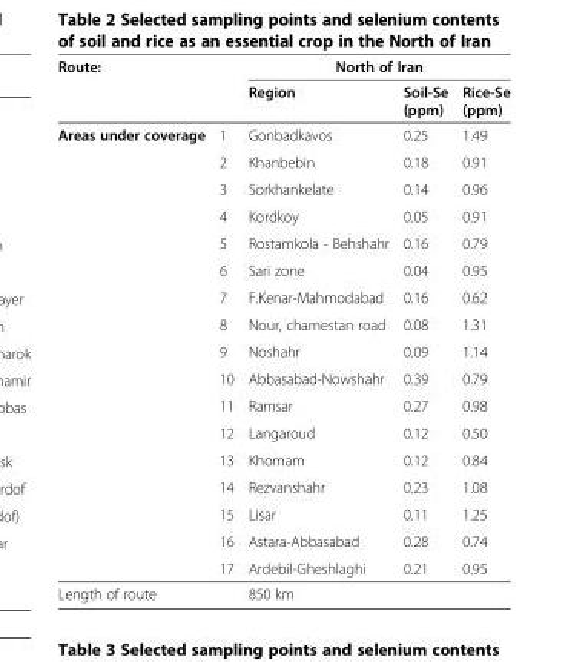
<table><thead><tr><td colspan="2">Route:</td><td colspan="3">North of Iran</td></tr><tr><td></td><td></td><td>Region</td><td>Soil-Se (ppm)</td><td>Rice-Se (ppm)</td></tr></thead><tbody><tr><td rowspan="17">Areas under coverage</td><td>1</td><td>Gonbadkavos</td><td>0.25</td><td>1.49</td></tr><tr><td>2</td><td>Khanbebin</td><td>0.18</td><td>0.91</td></tr><tr><td>3</td><td>Sorkhankelate</td><td>0.14</td><td>0.96</td></tr><tr><td>4</td><td>Kordkoy</td><td>0.05</td><td>0.91</td></tr><tr><td>5</td><td>Rostamkola - Behshahr</td><td>0.16</td><td>0.79</td></tr><tr><td>6</td><td>Sari zone</td><td>0.04</td><td>0.95</td></tr><tr><td>7</td><td>F.Kenar-Mahmodabad</td><td>0.16</td><td>0.62</td></tr><tr><td>8</td><td>Nour, chamestan road</td><td>0.08</td><td>1.31</td></tr><tr><td>9</td><td>Noshahr</td><td>0.09</td><td>1.14</td></tr><tr><td>10</td><td>Abbasabad-Nowshahr</td><td>0.39</td><td>0.79</td></tr><tr><td>11</td><td>Ramsar</td><td>0.27</td><td>0.98</td></tr><tr><td>12</td><td>Langaroud</td><td>0.12</td><td>0.50</td></tr><tr><td>13</td><td>Khomam</td><td>0.12</td><td>0.84</td></tr><tr><td>14</td><td>Rezvanshahr</td><td>0.23</td><td>1.08</td></tr><tr><td>15</td><td>Lisar</td><td>0.11</td><td>1.25</td></tr><tr><td>16</td><td>Astara-Abbasabad</td><td>0.28</td><td>0.74</td></tr><tr><td>17</td><td>Ardebil-Gheshlaghi</td><td>0.21</td><td>0.95</td></tr><tr><td colspan="2">Length of route</td><td colspan="3">850 km</td></tr></tbody></table>